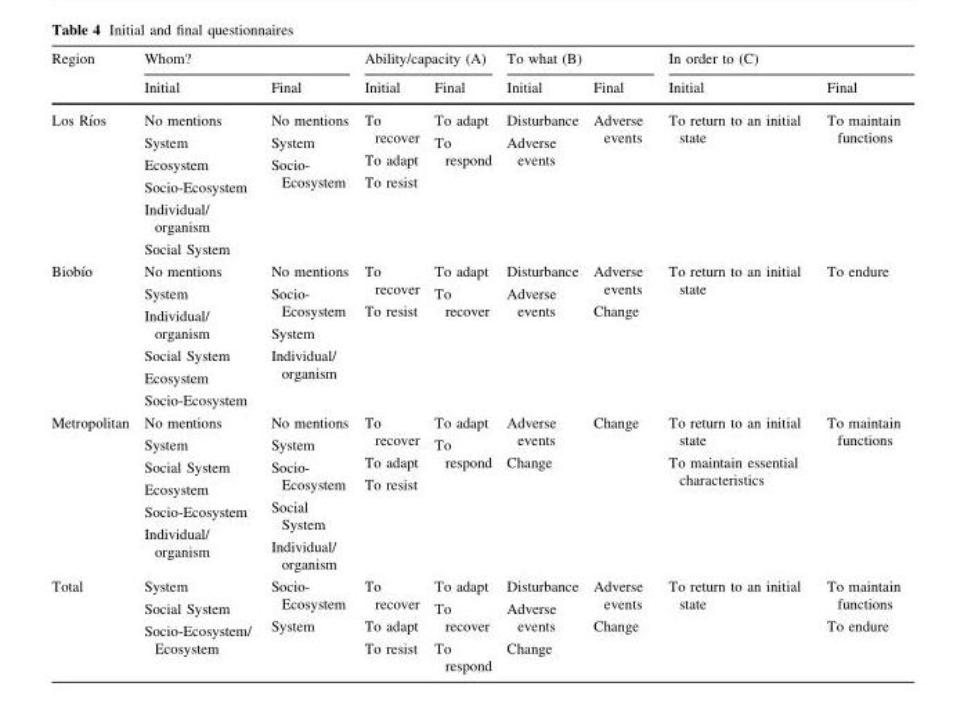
<table><thead><tr><td rowspan="2">Region</td><td colspan="2">Whom?</td><td colspan="2">Ability/capacity (A)</td><td colspan="2">To what (B)</td><td colspan="2">In order to (C)</td></tr><tr><td>Initial</td><td>Final</td><td>Initial</td><td>Final</td><td>Initial</td><td>Final</td><td>Initial</td><td>Final</td></tr></thead><tbody><tr><td>Los Rı´os</td><td>No mentions System Ecosystem Socio-Ecosystem Individual/ organism Social System</td><td>No mentions System Socio- Ecosystem</td><td>To recover To adapt To resist</td><td>To adapt To respond</td><td>Disturbance Adverse events</td><td>Adverse events</td><td>To return to an initial state</td><td>To maintain functions</td></tr><tr><td>Biobı´o</td><td>No mentions System Individual/ organism Social System Ecosystem Socio-Ecosystem</td><td>No mentions Socio- Ecosystem System Individual/ organism</td><td>To recover To resist</td><td>To adapt To recover</td><td>Disturbance Adverse events</td><td>Adverse events Change</td><td>To return to an initial state</td><td>To endure</td></tr><tr><td>Metropolitan</td><td>No mentions System Social System Ecosystem Socio-Ecosystem Individual/ organism</td><td>No mentions System Socio- Ecosystem Social System Individual/ organism</td><td>To recover To adapt To resist</td><td>To adapt To respond</td><td>Adverse events Change</td><td>Change</td><td>To return to an initial state To maintain essential characteristics</td><td>To maintain functions</td></tr><tr><td>Total</td><td>System Social System Socio-Ecosystem/ Ecosystem</td><td>Socio- Ecosystem System</td><td>To recover To adapt To resist</td><td>To adapt To recover To respond</td><td>Disturbance Adverse events Change</td><td>Adverse events Change</td><td>To return to an initial state</td><td>To maintain functions To endure</td></tr></tbody></table>